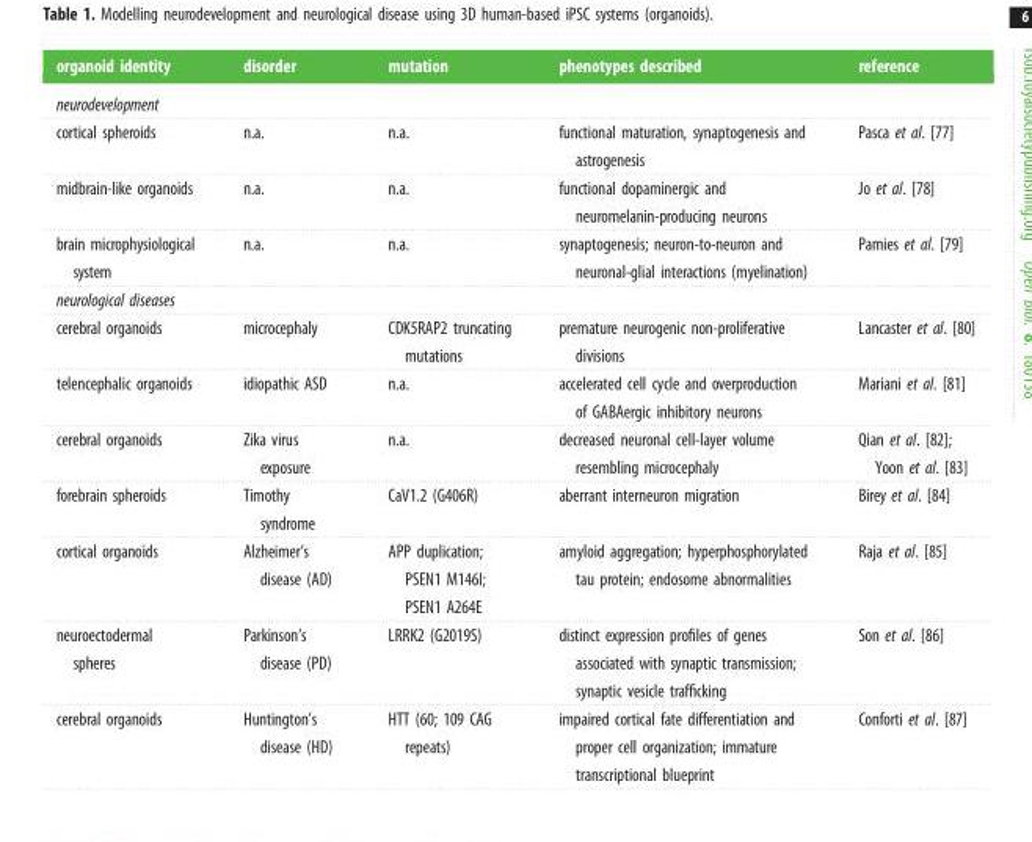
<table><thead><tr><td>organoid identity</td><td>disorder</td><td>mutation</td><td>phenotypes described</td><td>reference</td></tr></thead><tbody><tr><td colspan="5">neurodevelopment</td></tr><tr><td>cortical spheroids</td><td>n.a.</td><td>n.a.</td><td>functional maturation, synaptogenesis and astrogenesis</td><td>Pasca et al. [77]</td></tr><tr><td>midbrain-like organoids</td><td>n.a.</td><td>n.a.</td><td>functional dopaminergic and neuromelanin-producing neurons</td><td>Jo et al. [78]</td></tr><tr><td>brain microphysiological system</td><td>n.a.</td><td>n.a.</td><td>synaptogenesis; neuron-to-neuron and neuronal-glial interactions (myelination)</td><td>Pamies et al. [79]</td></tr><tr><td colspan="5">neurological diseases</td></tr><tr><td>cerebral organoids</td><td>microcephaly</td><td>CDK5RAP2 truncating mutations</td><td>premature neurogenic non-proliferative divisions</td><td>Lancaster et al. [80]</td></tr><tr><td>telencephalic organoids</td><td>idiopathic ASD</td><td>n.a.</td><td>accelerated cell cycle and overproduction of GABAergic inhibitory neurons</td><td>Mariani et al. [81]</td></tr><tr><td>cerebral organoids</td><td>Zika virus exposure</td><td>n.a.</td><td>decreased neuronal cell-layer volume resembling microcephaly</td><td>Qian et al. [82]; Yoon et al. [83]</td></tr><tr><td>forebrain spheroids</td><td>Timothy syndrome</td><td>CaV1.2 (G406R)</td><td>aberrant interneuron migration</td><td>Birey et al. [84]</td></tr><tr><td>cortical organoids</td><td>Alzheimer’s disease (AD)</td><td>APP duplication; PSEN1 M146I; PSEN1 A264E</td><td>amyloid aggregation; hyperphosphorylated tau protein; endosome abnormalities</td><td>Raja et al. [85]</td></tr><tr><td>neuroectodermal spheres</td><td>Parkinson’s disease (PD)</td><td>LRRK2 (G2019S)</td><td>distinct expression profiles of genes associated with synaptic transmission; synaptic vesicle trafficking</td><td>Son et al. [86]</td></tr><tr><td>cerebral organoids</td><td>Huntington’s disease (HD)</td><td>HTT (60; 109 CAG repeats)</td><td>impaired cortical fate differentiation and proper cell organization; immature transcriptional blueprint</td><td>Conforti et al. [87]</td></tr></tbody></table>